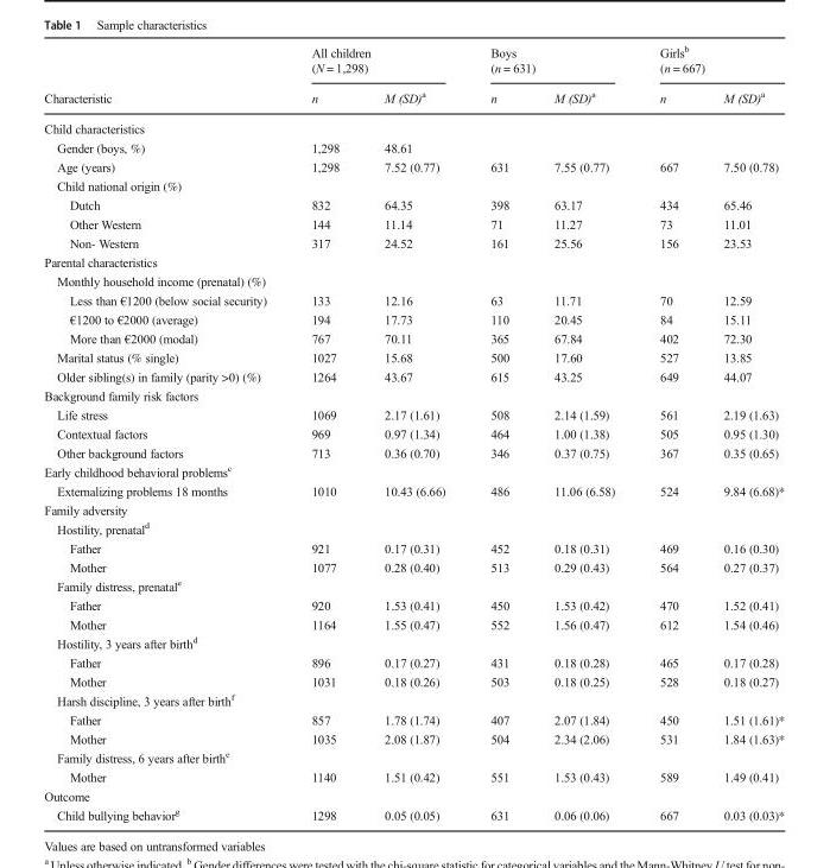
<table><thead><tr><td rowspan="2">Characteristic</td><td colspan="2">All children (N = 1,298)</td><td colspan="2">Boys (n = 631)</td><td colspan="2">Girls<sup>b</sup> (n = 667)</td></tr><tr><td>n</td><td>M (SD)<sup>a</sup></td><td>n</td><td>M (SD)<sup>a</sup></td><td>n</td><td>M (SD)<sup>a</sup></td></tr></thead><tbody><tr><td colspan="7">Child characteristics</td></tr><tr><td>Gender (boys, %)</td><td>1,298</td><td>48.61</td><td></td><td></td><td></td><td></td></tr><tr><td>Age (years)</td><td>1,298</td><td>7.52 (0.77)</td><td>631</td><td>7.55 (0.77)</td><td>667</td><td>7.50 (0.78)</td></tr><tr><td colspan="7">Child national origin (%)</td></tr><tr><td>Dutch</td><td>832</td><td>64.35</td><td>398</td><td>63.17</td><td>434</td><td>65.46</td></tr><tr><td>Other Western</td><td>144</td><td>11.14</td><td>71</td><td>11.27</td><td>73</td><td>11.01</td></tr><tr><td>Non- Western</td><td>317</td><td>24.52</td><td>161</td><td>25.56</td><td>156</td><td>23.53</td></tr><tr><td colspan="7">Parental characteristics</td></tr><tr><td colspan="7">Monthly household income (prenatal) (%)</td></tr><tr><td>Less than €1200 (below social security)</td><td>133</td><td>12.16</td><td>63</td><td>11.71</td><td>70</td><td>12.59</td></tr><tr><td>€1200 to €2000 (average)</td><td>194</td><td>17.73</td><td>110</td><td>20.45</td><td>84</td><td>15.11</td></tr><tr><td>More than €2000 (modal)</td><td>767</td><td>70.11</td><td>365</td><td>67.84</td><td>402</td><td>72.30</td></tr><tr><td>Marital status (% single)</td><td>1027</td><td>15.68</td><td>500</td><td>17.60</td><td>527</td><td>13.85</td></tr><tr><td>Older sibling(s) in family (parity &gt;0) (%)</td><td>1264</td><td>43.67</td><td>615</td><td>43.25</td><td>649</td><td>44.07</td></tr><tr><td colspan="7">Background family risk factors</td></tr><tr><td>Life stress</td><td>1069</td><td>2.17 (1.61)</td><td>508</td><td>2.14 (1.59)</td><td>561</td><td>2.19 (1.63)</td></tr><tr><td>Contextual factors</td><td>969</td><td>0.97 (1.34)</td><td>464</td><td>1.00 (1.38)</td><td>505</td><td>0.95 (1.30)</td></tr><tr><td>Other background factors</td><td>713</td><td>0.36 (0.70)</td><td>346</td><td>0.37 (0.75)</td><td>367</td><td>0.35 (0.65)</td></tr><tr><td colspan="7">Early childhood behavioral problems<sup>c</sup></td></tr><tr><td>Externalizing problems 18 months</td><td>1010</td><td>10.43 (6.66)</td><td>486</td><td>11.06 (6.58)</td><td>524</td><td>9.84 (6.68)*</td></tr><tr><td colspan="7">Family adversity</td></tr><tr><td colspan="7">Hostility, prenatal<sup>d</sup></td></tr><tr><td>Father</td><td>921</td><td>0.17 (0.31)</td><td>452</td><td>0.18 (0.31)</td><td>469</td><td>0.16 (0.30)</td></tr><tr><td>Mother</td><td>1077</td><td>0.28 (0.40)</td><td>513</td><td>0.29 (0.43)</td><td>564</td><td>0.27 (0.37)</td></tr><tr><td colspan="7">Family distress, prenatal<sup>e</sup></td></tr><tr><td>Father</td><td>920</td><td>1.53 (0.41)</td><td>450</td><td>1.53 (0.42)</td><td>470</td><td>1.52 (0.41)</td></tr><tr><td>Mother</td><td>1164</td><td>1.55 (0.47)</td><td>552</td><td>1.56 (0.47)</td><td>612</td><td>1.54 (0.46)</td></tr><tr><td colspan="7">Hostility, 3 years after birth<sup>d</sup></td></tr><tr><td>Father</td><td>896</td><td>0.17 (0.27)</td><td>431</td><td>0.18 (0.28)</td><td>465</td><td>0.17 (0.28)</td></tr><tr><td>Mother</td><td>1031</td><td>0.18 (0.26)</td><td>503</td><td>0.18 (0.25)</td><td>528</td><td>0.18 (0.27)</td></tr><tr><td colspan="7">Harsh discipline, 3 years after birth<sup>f</sup></td></tr><tr><td>Father</td><td>857</td><td>1.78 (1.74)</td><td>407</td><td>2.07 (1.84)</td><td>450</td><td>1.51 (1.61)*</td></tr><tr><td>Mother</td><td>1035</td><td>2.08 (1.87)</td><td>504</td><td>2.34 (2.06)</td><td>531</td><td>1.84 (1.63)*</td></tr><tr><td colspan="7">Family distress, 6 years after birth<sup>e</sup></td></tr><tr><td>Mother</td><td>1140</td><td>1.51 (0.42)</td><td>551</td><td>1.53 (0.43)</td><td>589</td><td>1.49 (0.41)</td></tr><tr><td colspan="7">Outcome</td></tr><tr><td>Child bullying behavior<sup>g</sup></td><td>1298</td><td>0.05 (0.05)</td><td>631</td><td>0.06 (0.06)</td><td>667</td><td>0.03 (0.03)*</td></tr></tbody></table>